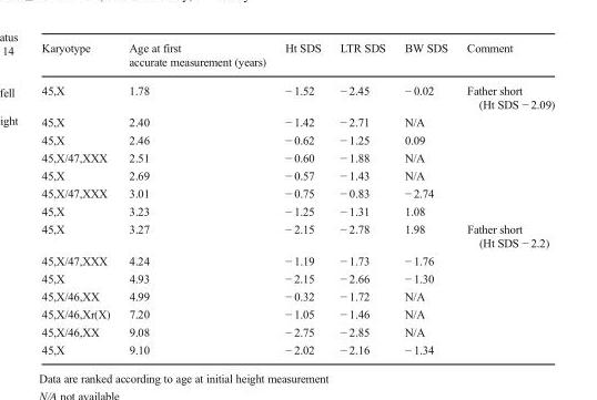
<table><thead><tr><td>Karyotype</td><td>Age at first accurate measurement (years)</td><td>Ht SDS</td><td>LTR SDS</td><td>BW SDS</td><td>Comment</td></tr></thead><tbody><tr><td>45,X</td><td>1.78</td><td>− 1.52</td><td>− 2.45</td><td>− 0.02</td><td>Father short (Ht SDS − 2.09)</td></tr><tr><td>45,X</td><td>2.40</td><td>− 1.42</td><td>− 2.71</td><td>N/A</td><td></td></tr><tr><td>45,X</td><td>2.46</td><td>− 0.62</td><td>− 1.25</td><td>0.09</td><td></td></tr><tr><td>45,X/47,XXX</td><td>2.51</td><td>− 0.60</td><td>− 1.88</td><td>N/A</td><td></td></tr><tr><td>45,X</td><td>2.69</td><td>− 0.57</td><td>− 1.43</td><td>N/A</td><td></td></tr><tr><td>45,X/47,XXX</td><td>3.01</td><td>− 0.75</td><td>− 0.83</td><td>− 2.74</td><td></td></tr><tr><td>45,X</td><td>3.23</td><td>− 1.25</td><td>− 1.31</td><td>1.08</td><td></td></tr><tr><td>45,X</td><td>3.27</td><td>− 2.15</td><td>− 2.78</td><td>1.98</td><td>Father short (Ht SDS − 2.2)</td></tr><tr><td>45,X/47,XXX</td><td>4.24</td><td>− 1.19</td><td>− 1.73</td><td>− 1.76</td><td></td></tr><tr><td>45,X</td><td>4.93</td><td>− 2.15</td><td>− 2.66</td><td>− 1.30</td><td></td></tr><tr><td>45,X/46,XX</td><td>4.99</td><td>− 0.32</td><td>− 1.72</td><td>N/A</td><td></td></tr><tr><td>45,X/46,Xr(X)</td><td>7.20</td><td>− 1.05</td><td>− 1.46</td><td>N/A</td><td></td></tr><tr><td>45,X/46,XX</td><td>9.08</td><td>− 2.75</td><td>− 2.85</td><td>N/A</td><td></td></tr><tr><td>45,X</td><td>9.10</td><td>− 2.02</td><td>− 2.16</td><td>− 1.34</td><td></td></tr></tbody></table>